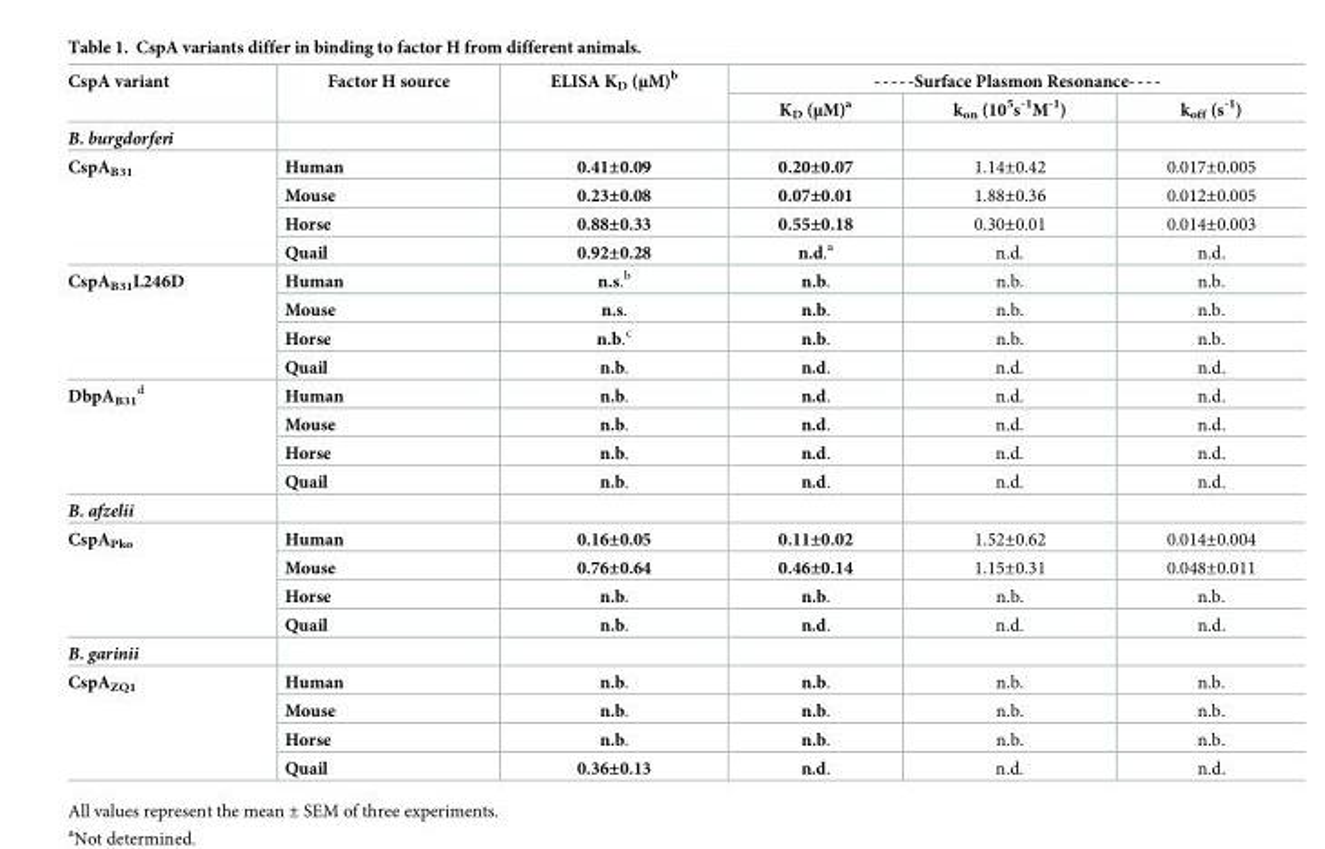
<table><thead><tr><td rowspan="2">CspA variant</td><td rowspan="2">Factor H source</td><td rowspan="2">ELISA K<sub>D</sub> (μM)<sup>b</sup></td><td colspan="3">-----Surface Plasmon Resonance----</td></tr><tr><td>K<sub>D</sub> (μM)<sup>a</sup></td><td>k<sub>on</sub> (10<sup>5</sup>s<sup>-1</sup>M<sup>-1</sup>)</td><td>k<sub>off</sub> (s<sup>-1</sup>)</td></tr></thead><tbody><tr><td colspan="6">B. burgdorferi</td></tr><tr><td rowspan="4">CspA<sub>B31</sub></td><td>Human</td><td>0.41±0.09</td><td>0.20±0.07</td><td>1.14±0.42</td><td>0.017±0.005</td></tr><tr><td>Mouse</td><td>0.23±0.08</td><td>0.07±0.01</td><td>1.88±0.36</td><td>0.012±0.005</td></tr><tr><td>Horse</td><td>0.88±0.33</td><td>0.55±0.18</td><td>0.30±0.01</td><td>0.014±0.003</td></tr><tr><td>Quail</td><td>0.92±0.28</td><td>n.d.<sup>a</sup></td><td>n.d.</td><td>n.d.</td></tr><tr><td rowspan="4">CspA<sub>B31</sub>L246D</td><td>Human</td><td>n.s.<sup>b</sup></td><td>n.b.</td><td>n.b.</td><td>n.b.</td></tr><tr><td>Mouse</td><td>n.s.</td><td>n.b.</td><td>n.b.</td><td>n.b.</td></tr><tr><td>Horse</td><td>n.b.<sup>c</sup></td><td>n.b.</td><td>n.b.</td><td>n.b.</td></tr><tr><td>Quail</td><td>n.b.</td><td>n.d.</td><td>n.d.</td><td>n.d.</td></tr><tr><td rowspan="4">DbpA<sub>B31</sub> <sup>d</sup></td><td>Human</td><td>n.b.</td><td>n.d.</td><td>n.d.</td><td>n.d.</td></tr><tr><td>Mouse</td><td>n.b.</td><td>n.d.</td><td>n.d.</td><td>n.d.</td></tr><tr><td>Horse</td><td>n.b.</td><td>n.d.</td><td>n.d.</td><td>n.d.</td></tr><tr><td>Quail</td><td>n.b.</td><td>n.d.</td><td>n.d.</td><td>n.d.</td></tr><tr><td colspan="6">B. afzelii</td></tr><tr><td rowspan="4">CspA<sub>Pko</sub></td><td>Human</td><td>0.16±0.05</td><td>0.11±0.02</td><td>1.52±0.62</td><td>0.014±0.004</td></tr><tr><td>Mouse</td><td>0.76±0.64</td><td>0.46±0.14</td><td>1.15±0.31</td><td>0.048±0.011</td></tr><tr><td>Horse</td><td>n.b.</td><td>n.b.</td><td>n.b.</td><td>n.b.</td></tr><tr><td>Quail</td><td>n.b.</td><td>n.d.</td><td>n.d.</td><td>n.d.</td></tr><tr><td colspan="6">B. garinii</td></tr><tr><td rowspan="4">CspA<sub>ZQ1</sub></td><td>Human</td><td>n.b.</td><td>n.b.</td><td>n.b.</td><td>n.b.</td></tr><tr><td>Mouse</td><td>n.b.</td><td>n.b.</td><td>n.b.</td><td>n.b.</td></tr><tr><td>Horse</td><td>n.b.</td><td>n.b.</td><td>n.b.</td><td>n.b.</td></tr><tr><td>Quail</td><td>0.36±0.13</td><td>n.d.</td><td>n.d.</td><td>n.d.</td></tr></tbody></table>